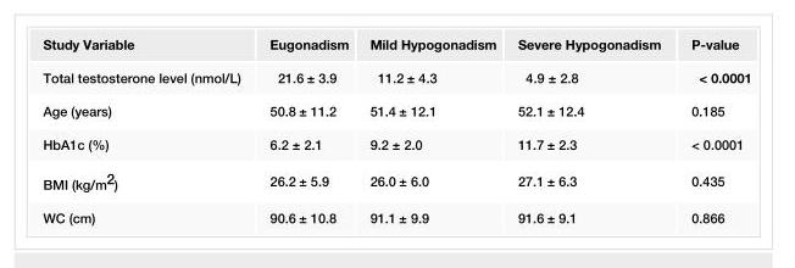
<table><tbody><tr><td>Study Variable</td><td>Eugonadism</td><td>Mild Hypogonadism</td><td>Severe Hypogonadism</td><td>P-value</td></tr><tr><td>Total testosterone level (nmol/L)</td><td>21.6 ± 3.9</td><td>11.2 ± 4.3</td><td>4.9 ± 2.8</td><td>&lt; 0.0001</td></tr><tr><td>Age (years)</td><td>50.8 ± 11.2</td><td>51.4 ± 12.1</td><td>52.1 ± 12.4</td><td>0.185</td></tr><tr><td>HbA1c (%)</td><td>6.2 ± 2.1</td><td>9.2 ± 2.0</td><td>11.7 ± 2.3</td><td>&lt; 0.0001</td></tr><tr><td>BMI (kg/m<sup>2</sup>)</td><td>26.2 ± 5.9</td><td>26.0 ± 6.0</td><td>27.1 ± 6.3</td><td>0.435</td></tr><tr><td>WC (cm)</td><td>90.6 ± 10.8</td><td>91.1 ± 9.9</td><td>91.6 ± 9.1</td><td>0.866</td></tr></tbody></table>